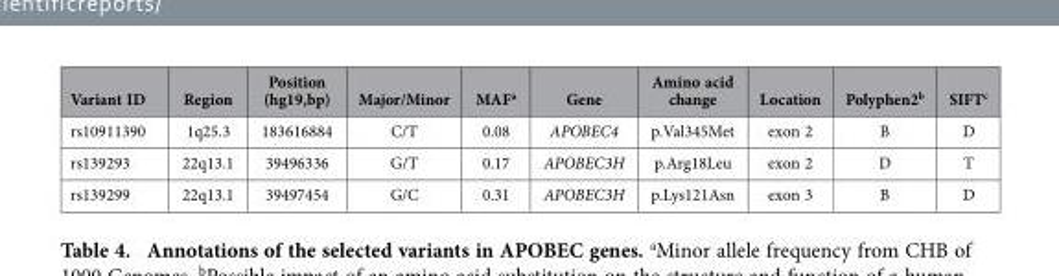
<table><thead><tr><td>Variant ID</td><td>Region</td><td>Position (hg19,bp)</td><td>Major/Minor</td><td>MAF<sup>a</sup></td><td>Gene</td><td>Amino acid change</td><td>Location</td><td>Polyphen2<sup>b</sup></td><td>SIFT<sup>c</sup></td></tr></thead><tbody><tr><td>rs10911390</td><td>1q25.3</td><td>183616884</td><td>C/T</td><td>0.08</td><td>APOBEC4</td><td>p.Val345Met</td><td>exon 2</td><td>B</td><td>D</td></tr><tr><td>rs139293</td><td>22q13.1</td><td>39496336</td><td>G/T</td><td>0.17</td><td>APOBEC3H</td><td>p.Arg18Leu</td><td>exon 2</td><td>D</td><td>T</td></tr><tr><td>rs139299</td><td>22q13.1</td><td>39497454</td><td>G/C</td><td>0.31</td><td>APOBEC3H</td><td>p.Lys121Asn</td><td>exon 3</td><td>B</td><td>D</td></tr></tbody></table>